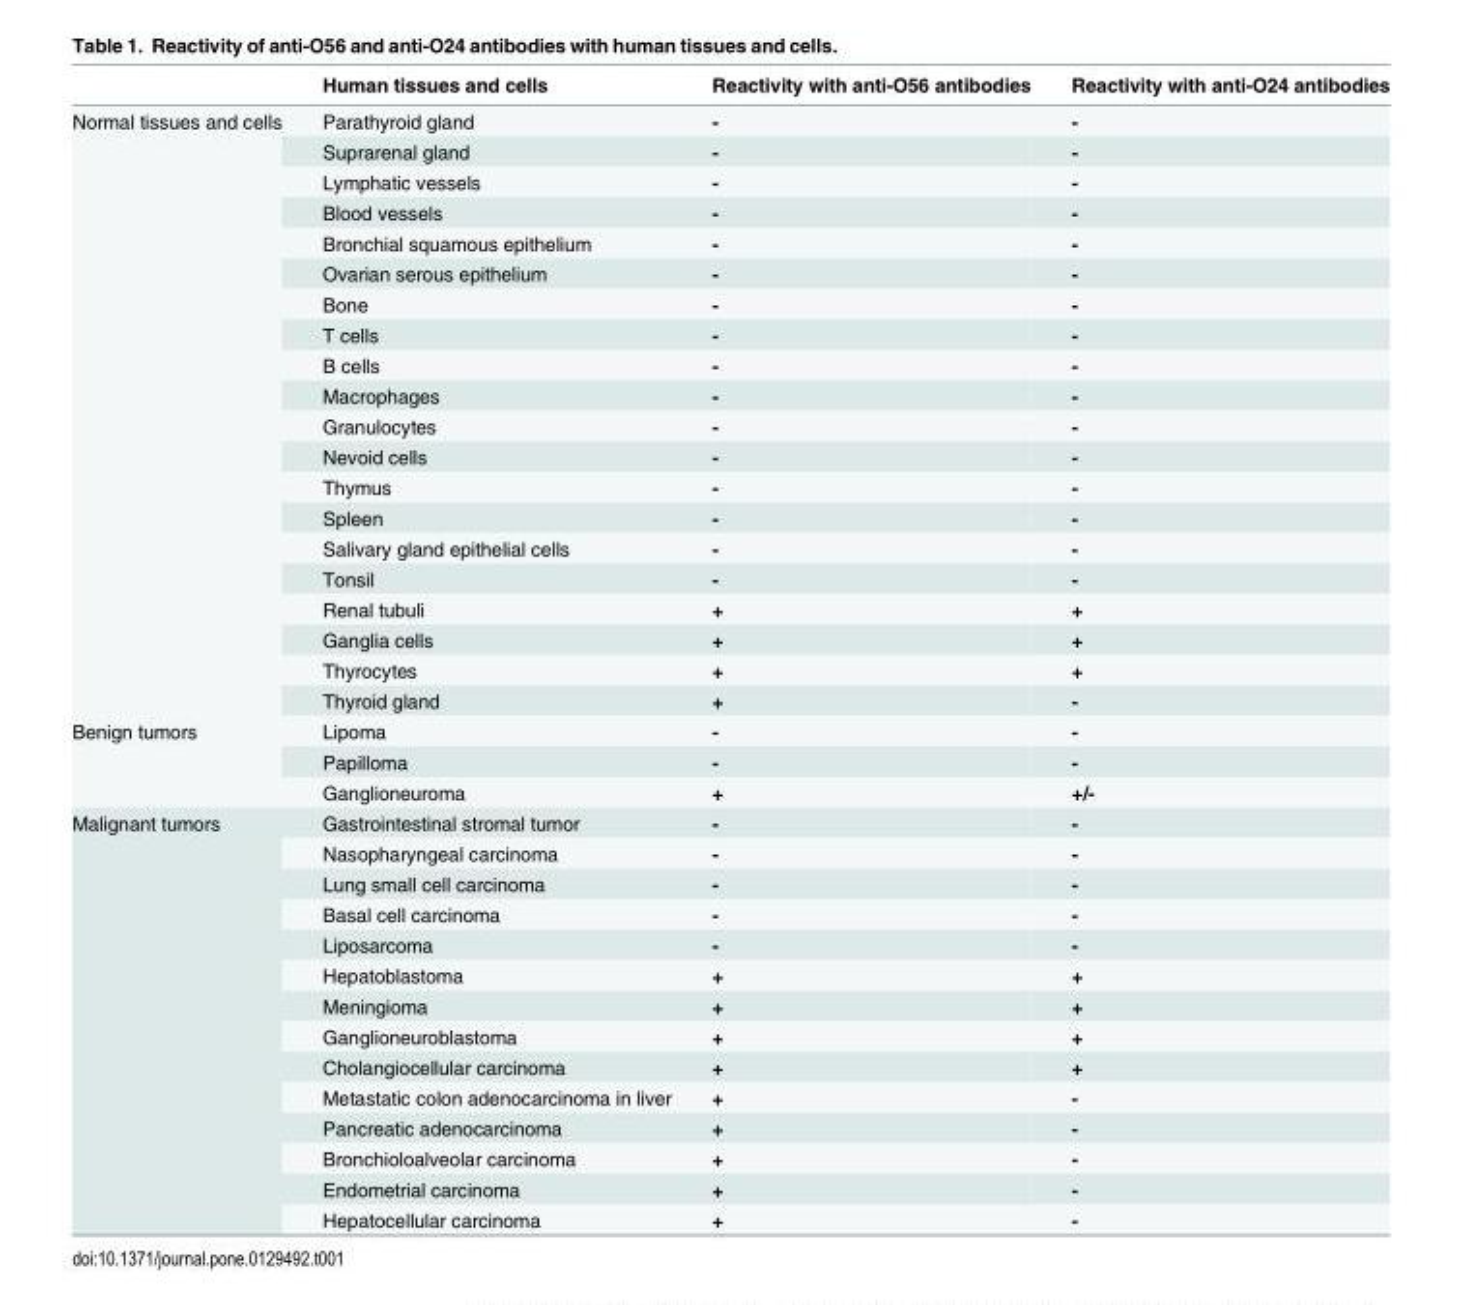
<table><thead><tr><td></td><td>Human tissues and cells</td><td>Reactivity with anti-O56 antibodies</td><td>Reactivity with anti-O24 antibodies</td></tr></thead><tbody><tr><td rowspan="20">Normal tissues and cells</td><td>Parathyroid gland</td><td>-</td><td>-</td></tr><tr><td>Suprarenal gland</td><td>-</td><td>-</td></tr><tr><td>Lymphatic vessels</td><td>-</td><td>-</td></tr><tr><td>Blood vessels</td><td>-</td><td>-</td></tr><tr><td>Bronchial squamous epithelium</td><td>-</td><td>-</td></tr><tr><td>Ovarian serous epithelium</td><td>-</td><td>-</td></tr><tr><td>Bone</td><td>-</td><td>-</td></tr><tr><td>T cells</td><td>-</td><td>-</td></tr><tr><td>B cells</td><td>-</td><td>-</td></tr><tr><td>Macrophages</td><td>-</td><td>-</td></tr><tr><td>Granulocytes</td><td>-</td><td>-</td></tr><tr><td>Nevoid cells</td><td>-</td><td>-</td></tr><tr><td>Thymus</td><td>-</td><td>-</td></tr><tr><td>Spleen</td><td>-</td><td>-</td></tr><tr><td>Salivary gland epithelial cells</td><td>-</td><td>-</td></tr><tr><td>Tonsil</td><td>-</td><td>-</td></tr><tr><td>Renal tubuli</td><td>+</td><td>+</td></tr><tr><td>Ganglia cells</td><td>+</td><td>+</td></tr><tr><td>Thyrocytes</td><td>+</td><td>+</td></tr><tr><td>Thyroid gland</td><td>+</td><td>-</td></tr><tr><td rowspan="3">Benign tumors</td><td>Lipoma</td><td>-</td><td>-</td></tr><tr><td>Papilloma</td><td>-</td><td>-</td></tr><tr><td>Ganglioneuroma</td><td>+</td><td>+/-</td></tr><tr><td rowspan="14">Malignant tumors</td><td>Gastrointestinal stromal tumor</td><td>-</td><td>-</td></tr><tr><td>Nasopharyngeal carcinoma</td><td>-</td><td>-</td></tr><tr><td>Lung small cell carcinoma</td><td>-</td><td>-</td></tr><tr><td>Basal cell carcinoma</td><td>-</td><td>-</td></tr><tr><td>Liposarcoma</td><td>-</td><td>-</td></tr><tr><td>Hepatoblastoma</td><td>+</td><td>+</td></tr><tr><td>Meningioma</td><td>+</td><td>+</td></tr><tr><td>Ganglioneuroblastoma</td><td>+</td><td>+</td></tr><tr><td>Cholangiocellular carcinoma</td><td>+</td><td>+</td></tr><tr><td>Metastatic colon adenocarcinoma in liver</td><td>+</td><td>-</td></tr><tr><td>Pancreatic adenocarcinoma</td><td>+</td><td>-</td></tr><tr><td>Bronchioloalveolar carcinoma</td><td>+</td><td>-</td></tr><tr><td>Endometrial carcinoma</td><td>+</td><td>-</td></tr><tr><td>Hepatocellular carcinoma</td><td>+</td><td>-</td></tr></tbody></table>